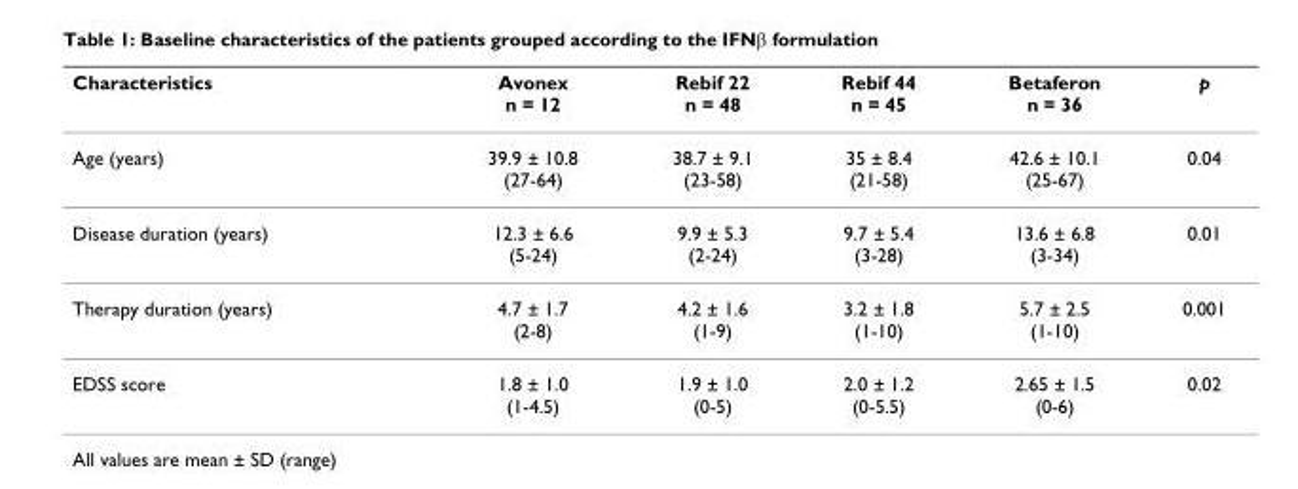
<table><thead><tr><td>Characteristics</td><td>Avonex n = 12</td><td>Rebif 22 n = 48</td><td>Rebif 44 n = 45</td><td>Betaferon n = 36</td><td>p</td></tr></thead><tbody><tr><td>Age (years)</td><td>39.9 ± 10.8 (27-64)</td><td>38.7 ± 9.1 (23-58)</td><td>35 ± 8.4 (21-58)</td><td>42.6 ± 10.1 (25-67)</td><td>0.04</td></tr><tr><td>Disease duration (years)</td><td>12.3 ± 6.6 (5-24)</td><td>9.9 ± 5.3 (2-24)</td><td>9.7 ± 5.4 (3-28)</td><td>13.6 ± 6.8 (3-34)</td><td>0.01</td></tr><tr><td>Therapy duration (years)</td><td>4.7 ± 1.7 (2-8)</td><td>4.2 ± 1.6 (1-9)</td><td>3.2 ± 1.8 (1-10)</td><td>5.7 ± 2.5 (1-10)</td><td>0.001</td></tr><tr><td>EDSS score</td><td>1.8 ± 1.0 (1-4.5)</td><td>1.9 ± 1.0 (0-5)</td><td>2.0 ± 1.2 (0-5.5)</td><td>2.65 ± 1.5 (0-6)</td><td>0.02</td></tr></tbody></table>